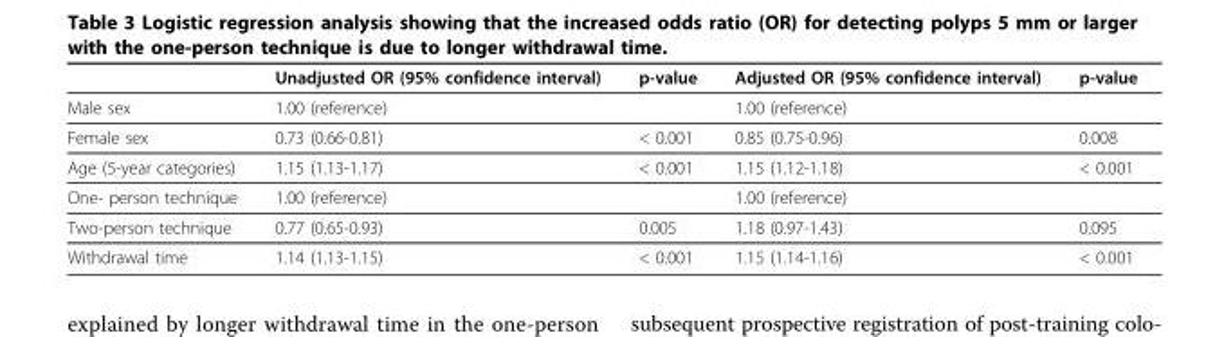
<table><thead><tr><td></td><td>Unadjusted OR (95% confidence interval)</td><td>p-value</td><td>Adjusted OR (95% confidence interval)</td><td>p-value</td></tr></thead><tbody><tr><td>Male sex</td><td>1.00 (reference)</td><td></td><td>1.00 (reference)</td><td></td></tr><tr><td>Female sex</td><td>0.73 (0.66-0.81)</td><td>&lt; 0.001</td><td>0.85 (0.75-0.96)</td><td>0.008</td></tr><tr><td>Age (5-year categories)</td><td>1.15 (1.13-1.17)</td><td>&lt; 0.001</td><td>1.15 (1.12-1.18)</td><td>&lt; 0.001</td></tr><tr><td>One- person technique</td><td>1.00 (reference)</td><td></td><td>1.00 (reference)</td><td></td></tr><tr><td>Two-person technique</td><td>0.77 (0.65-0.93)</td><td>0.005</td><td>1.18 (0.97-1.43)</td><td>0.095</td></tr><tr><td>Withdrawal time</td><td>1.14 (1.13-1.15)</td><td>&lt; 0.001</td><td>1.15 (1.14-1.16)</td><td>&lt; 0.001</td></tr></tbody></table>